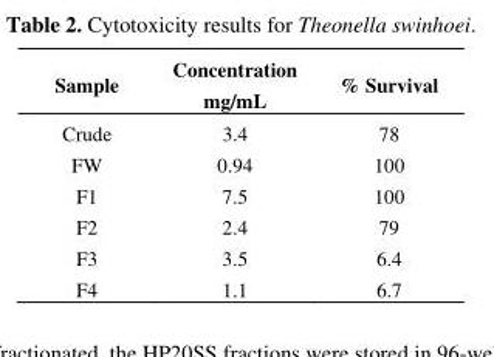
<table><thead><tr><td>Sample</td><td>Concentration mg/mL</td><td>% Survival</td></tr></thead><tbody><tr><td>Crude</td><td>3.4</td><td>78</td></tr><tr><td>FW</td><td>0.94</td><td>100</td></tr><tr><td>F1</td><td>7.5</td><td>100</td></tr><tr><td>F2</td><td>2.4</td><td>79</td></tr><tr><td>F3</td><td>3.5</td><td>6.4</td></tr><tr><td>F4</td><td>1.1</td><td>6.7</td></tr></tbody></table>